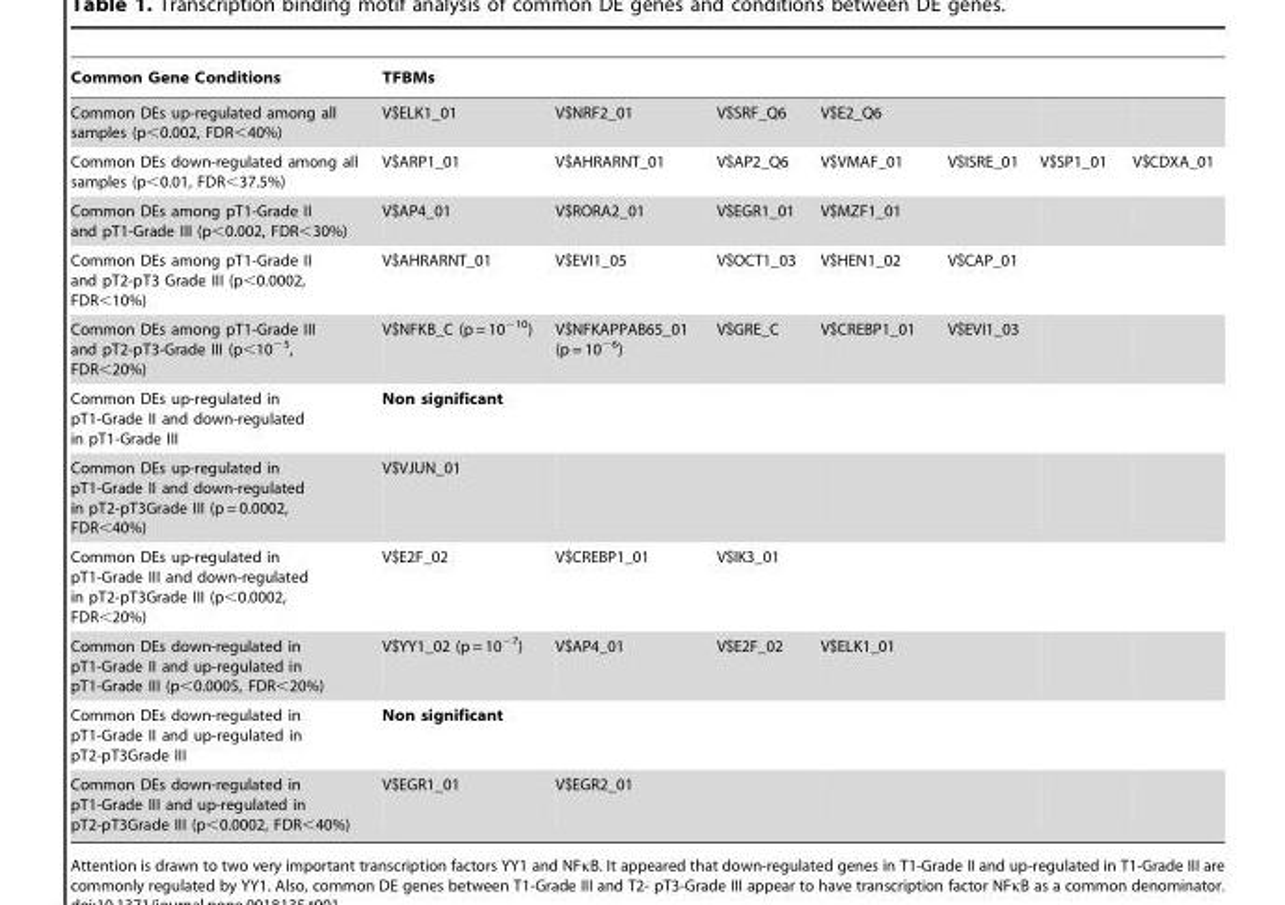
<table><thead><tr><td rowspan="2">Common Gene Conditions Common DEs up-regulated among all samples (p&lt;0.002, FDR&lt;40%)</td><td colspan="6">TFBMs</td><td rowspan="2"></td></tr><tr><td>V$ELK1_01</td><td>V$NRF2_01</td><td>V$SRF_Q6</td><td>V$E2_Q6</td><td></td><td></td></tr></thead><tbody><tr><td>Common DEs down-regulated among all samples (p&lt;0.01, FDR&lt;37.5%)</td><td>V$ARP1_01</td><td>V$AHRARNT_01</td><td>V$AP2_Q6</td><td>V$VMAF_01</td><td>V$ISRE_01</td><td>V$SP1_01</td><td>V$CDXA_01</td></tr><tr><td>Common DEs among pT1-Grade II and pT1-Grade III (p&lt;0.002, FDR&lt;30%)</td><td>V$AP4_01</td><td>V$RORA2_01</td><td>V$EGR1_01</td><td>V$MZF1_01</td><td></td><td></td><td></td></tr><tr><td>Common DEs among pT1-Grade II and pT2-pT3 Grade III (p&lt;0.0002, FDR&lt;10%)</td><td>V$AHRARNT_01</td><td>V$EVI1_05</td><td>V$OCT1_03</td><td>V$HEN1_02</td><td>V$CAP_01</td><td></td><td></td></tr><tr><td>Common DEs among pT1-Grade III and pT2-pT3-Grade III (p&lt;10<sup>−5</sup>, FDR&lt;20%)</td><td>V$NFKB_C (p = 10<sup>−10</sup>)</td><td>V$NFKAPPAB65_01 (p = 10<sup>−6</sup>)</td><td>V$GRE_C</td><td>V$CREBP1_01</td><td>V$EVI1_03</td><td></td><td></td></tr><tr><td>Common DEs up-regulated in pT1-Grade II and down-regulated in pT1-Grade III</td><td>Non significant</td><td></td><td></td><td></td><td></td><td></td><td></td></tr><tr><td>Common DEs up-regulated in pT1-Grade II and down-regulated in pT2-pT3Grade III (p = 0.0002, FDR&lt;40%)</td><td>V$VJUN_01</td><td></td><td></td><td></td><td></td><td></td><td></td></tr><tr><td>Common DEs up-regulated in pT1-Grade III and down-regulated in pT2-pT3Grade III (p&lt;0.0002, FDR&lt;20%)</td><td>V$E2F_02</td><td>V$CREBP1_01</td><td>V$IK3_01</td><td></td><td></td><td></td><td></td></tr><tr><td>Common DEs down-regulated in pT1-Grade II and up-regulated in pT1-Grade III (p&lt;0.0005, FDR&lt;20%)</td><td>V$YY1_02 (p = 10<sup>−7</sup>)</td><td>V$AP4_01</td><td>V$E2F_02</td><td>V$ELK1_01</td><td></td><td></td><td></td></tr><tr><td>Common DEs down-regulated in pT1-Grade II and up-regulated in pT2-pT3Grade III</td><td>Non significant</td><td></td><td></td><td></td><td></td><td></td><td></td></tr><tr><td>Common DEs down-regulated in pT1-Grade III and up-regulated in pT2-pT3Grade III (p&lt;0.0002, FDR&lt;40%)</td><td>V$EGR1_01</td><td>V$EGR2_01</td><td></td><td></td><td></td><td></td><td></td></tr></tbody></table>